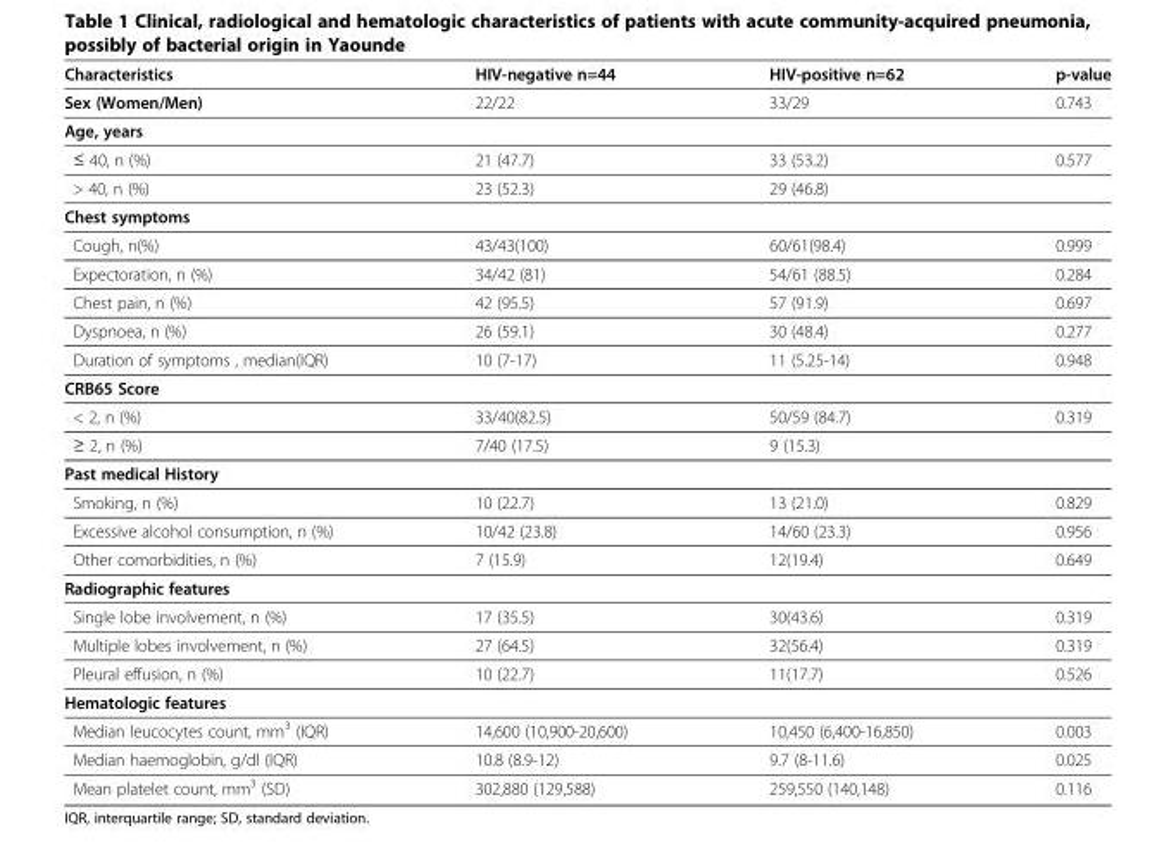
<table><thead><tr><td>Characteristics</td><td>HIV-negative n=44</td><td>HIV-positive n=62</td><td>p-value</td></tr></thead><tbody><tr><td>Sex (Women/Men)</td><td>22/22</td><td>33/29</td><td>0.743</td></tr><tr><td colspan="4">Age, years</td></tr><tr><td>≤ 40, n (%)</td><td>21 (47.7)</td><td>33 (53.2)</td><td>0.577</td></tr><tr><td>&gt; 40, n (%)</td><td>23 (52.3)</td><td>29 (46.8)</td><td></td></tr><tr><td colspan="4">Chest symptoms</td></tr><tr><td>Cough, n(%)</td><td>43/43(100)</td><td>60/61(98.4)</td><td>0.999</td></tr><tr><td>Expectoration, n (%)</td><td>34/42 (81)</td><td>54/61 (88.5)</td><td>0.284</td></tr><tr><td>Chest pain, n (%)</td><td>42 (95.5)</td><td>57 (91.9)</td><td>0.697</td></tr><tr><td>Dyspnoea, n (%)</td><td>26 (59.1)</td><td>30 (48.4)</td><td>0.277</td></tr><tr><td>Duration of symptoms , median(IQR)</td><td>10 (7-17)</td><td>11 (5.25-14)</td><td>0.948</td></tr><tr><td colspan="4">CRB65 Score</td></tr><tr><td>&lt; 2, n (%)</td><td>33/40(82.5)</td><td>50/59 (84.7)</td><td>0.319</td></tr><tr><td>≥ 2, n (%)</td><td>7/40 (17.5)</td><td>9 (15.3)</td><td></td></tr><tr><td colspan="4">Past medical History</td></tr><tr><td>Smoking, n (%)</td><td>10 (22.7)</td><td>13 (21.0)</td><td>0.829</td></tr><tr><td>Excessive alcohol consumption, n (%)</td><td>10/42 (23.8)</td><td>14/60 (23.3)</td><td>0.956</td></tr><tr><td>Other comorbidities, n (%)</td><td>7 (15.9)</td><td>12(19.4)</td><td>0.649</td></tr><tr><td colspan="4">Radiographic features</td></tr><tr><td>Single lobe involvement, n (%)</td><td>17 (35.5)</td><td>30(43.6)</td><td>0.319</td></tr><tr><td>Multiple lobes involvement, n (%)</td><td>27 (64.5)</td><td>32(56.4)</td><td>0.319</td></tr><tr><td>Pleural effusion, n (%)</td><td>10 (22.7)</td><td>11(17.7)</td><td>0.526</td></tr><tr><td colspan="4">Hematologic features</td></tr><tr><td>Median leucocytes count, mm<sup>3</sup> (IQR)</td><td>14,600 (10,900-20,600)</td><td>10,450 (6,400-16,850)</td><td>0.003</td></tr><tr><td>Median haemoglobin, g/dl (IQR)</td><td>10.8 (8.9-12)</td><td>9.7 (8-11.6)</td><td>0.025</td></tr><tr><td>Mean platelet count, mm<sup>3</sup> (SD)</td><td>302,880 (129,588)</td><td>259,550 (140,148)</td><td>0.116</td></tr></tbody></table>